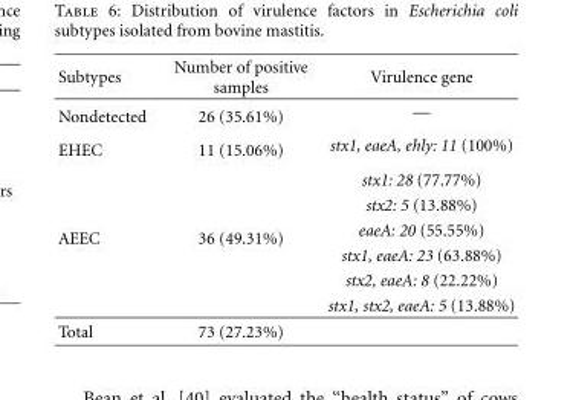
<table><thead><tr><td>Subtypes</td><td>Number of positive samples</td><td>Virulence gene</td></tr></thead><tbody><tr><td>Nondetected</td><td>26 (35.61%)</td><td>—</td></tr><tr><td>EHEC</td><td>11 (15.06%)</td><td>stx1, eaeA, ehly: 11 (100%)</td></tr><tr><td rowspan="6">AEEC</td><td rowspan="6">36 (49.31%)</td><td>stx1: 28 (77.77%)</td></tr><tr><td>stx2: 5 (13.88%)</td></tr><tr><td>eaeA: 20 (55.55%)</td></tr><tr><td>stx1, eaeA: 23 (63.88%)</td></tr><tr><td>stx2, eaeA: 8 (22.22%)</td></tr><tr><td>stx1, stx2, eaeA: 5 (13.88%)</td></tr><tr><td>Total</td><td>73 (27.23%)</td><td></td></tr></tbody></table>